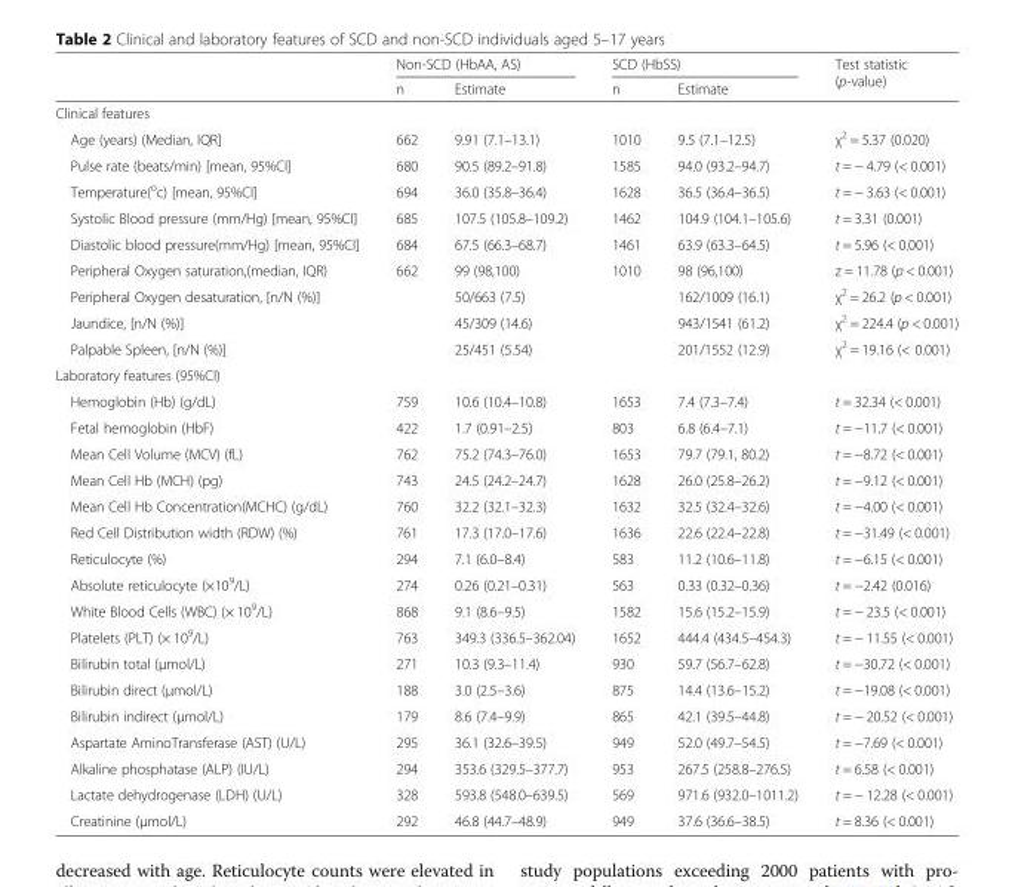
<table><thead><tr><td rowspan="2"></td><td colspan="2">Non-SCD (HbAA, AS)</td><td colspan="2">SCD (HbSS)</td><td rowspan="2">Test statistic (p-value)</td></tr><tr><td>n</td><td>Estimate</td><td>n</td><td>Estimate</td></tr></thead><tbody><tr><td colspan="6">Clinical features</td></tr><tr><td>Age (years) (Median, IQR]</td><td>662</td><td>9.91 (7.1–13.1)</td><td>1010</td><td>9.5 (7.1–12.5)</td><td>χ<sup>2</sup> = 5.37 (0.020)</td></tr><tr><td>Pulse rate (beats/min) [mean, 95%CI]</td><td>680</td><td>90.5 (89.2–91.8)</td><td>1585</td><td>94.0 (93.2–94.7)</td><td>t = − 4.79 (&lt; 0.001)</td></tr><tr><td>Temperature(<sup>o</sup>c) [mean, 95%CI]</td><td>694</td><td>36.0 (35.8–36.4)</td><td>1628</td><td>36.5 (36.4–36.5)</td><td>t = − 3.63 (&lt; 0.001)</td></tr><tr><td>Systolic Blood pressure (mm/Hg) [mean, 95%CI]</td><td>685</td><td>107.5 (105.8–109.2)</td><td>1462</td><td>104.9 (104.1–105.6)</td><td>t = 3.31 (0.001)</td></tr><tr><td>Diastolic blood pressure(mm/Hg) [mean, 95%CI]</td><td>684</td><td>67.5 (66.3–68.7)</td><td>1461</td><td>63.9 (63.3–64.5)</td><td>t = 5.96 (&lt; 0.001)</td></tr><tr><td>Peripheral Oxygen saturation,(median, IQR)</td><td>662</td><td>99 (98,100)</td><td>1010</td><td>98 (96,100)</td><td>z = 11.78 (p &lt; 0.001)</td></tr><tr><td>Peripheral Oxygen desaturation, [n/N (%)]</td><td></td><td>50/663 (7.5)</td><td></td><td>162/1009 (16.1)</td><td>χ<sup>2</sup> = 26.2 (p &lt; 0.001)</td></tr><tr><td>Jaundice, [n/N (%)]</td><td></td><td>45/309 (14.6)</td><td></td><td>943/1541 (61.2)</td><td>χ<sup>2</sup> = 224.4 (p &lt; 0.001)</td></tr><tr><td>Palpable Spleen, [n/N (%)]</td><td></td><td>25/451 (5.54)</td><td></td><td>201/1552 (12.9)</td><td>χ<sup>2</sup> = 19.16 (&lt; 0.001)</td></tr><tr><td colspan="6">Laboratory features (95%CI)</td></tr><tr><td>Hemoglobin (Hb) (g/dL)</td><td>759</td><td>10.6 (10.4–10.8)</td><td>1653</td><td>7.4 (7.3–7.4)</td><td>t = 32.34 (&lt; 0.001)</td></tr><tr><td>Fetal hemoglobin (HbF)</td><td>422</td><td>1.7 (0.91–2.5)</td><td>803</td><td>6.8 (6.4–7.1)</td><td>t = −11.7 (&lt; 0.001)</td></tr><tr><td>Mean Cell Volume (MCV) (fL)</td><td>762</td><td>75.2 (74.3–76.0)</td><td>1653</td><td>79.7 (79.1, 80.2)</td><td>t = −8.72 (&lt; 0.001)</td></tr><tr><td>Mean Cell Hb (MCH) (pg)</td><td>743</td><td>24.5 (24.2–24.7)</td><td>1628</td><td>26.0 (25.8–26.2)</td><td>t = −9.12 (&lt; 0.001)</td></tr><tr><td>Mean Cell Hb Concentration(MCHC) (g/dL)</td><td>760</td><td>32.2 (32.1–32.3)</td><td>1632</td><td>32.5 (32.4–32.6)</td><td>t = −4.00 (&lt; 0.001)</td></tr><tr><td>Red Cell Distribution width (RDW) (%)</td><td>761</td><td>17.3 (17.0–17.6)</td><td>1636</td><td>22.6 (22.4–22.8)</td><td>t = −31.49 (&lt; 0.001)</td></tr><tr><td>Reticulocyte (%)</td><td>294</td><td>7.1 (6.0–8.4)</td><td>583</td><td>11.2 (10.6–11.8)</td><td>t = −6.15 (&lt; 0.001)</td></tr><tr><td>Absolute reticulocyte (×10<sup>9</sup>/L)</td><td>274</td><td>0.26 (0.21–0.31)</td><td>563</td><td>0.33 (0.32–0.36)</td><td>t = −2.42 (0.016)</td></tr><tr><td>White Blood Cells (WBC) (× 10<sup>9</sup>/L)</td><td>868</td><td>9.1 (8.6–9.5)</td><td>1582</td><td>15.6 (15.2–15.9)</td><td>t = − 23.5 (&lt; 0.001)</td></tr><tr><td>Platelets (PLT) (× 10<sup>9</sup>/L)</td><td>763</td><td>349.3 (336.5–362.04)</td><td>1652</td><td>444.4 (434.5–454.3)</td><td>t = − 11.55 (&lt; 0.001)</td></tr><tr><td>Bilirubin total (μmol/L)</td><td>271</td><td>10.3 (9.3–11.4)</td><td>930</td><td>59.7 (56.7–62.8)</td><td>t = −30.72 (&lt; 0.001)</td></tr><tr><td>Bilirubin direct (μmol/L)</td><td>188</td><td>3.0 (2.5–3.6)</td><td>875</td><td>14.4 (13.6–15.2)</td><td>t = −19.08 (&lt; 0.001)</td></tr><tr><td>Bilirubin indirect (μmol/L)</td><td>179</td><td>8.6 (7.4–9.9)</td><td>865</td><td>42.1 (39.5–44.8)</td><td>t = − 20.52 (&lt; 0.001)</td></tr><tr><td>Aspartate AminoTransferase (AST) (U/L)</td><td>295</td><td>36.1 (32.6–39.5)</td><td>949</td><td>52.0 (49.7–54.5)</td><td>t = −7.69 (&lt; 0.001)</td></tr><tr><td>Alkaline phosphatase (ALP) (IU/L)</td><td>294</td><td>353.6 (329.5–377.7)</td><td>953</td><td>267.5 (258.8–276.5)</td><td>t = 6.58 (&lt; 0.001)</td></tr><tr><td>Lactate dehydrogenase (LDH) (U/L)</td><td>328</td><td>593.8 (548.0–639.5)</td><td>569</td><td>971.6 (932.0–1011.2)</td><td>t = − 12.28 (&lt; 0.001)</td></tr><tr><td>Creatinine (μmol/L)</td><td>292</td><td>46.8 (44.7–48.9)</td><td>949</td><td>37.6 (36.6–38.5)</td><td>t = 8.36 (&lt; 0.001)</td></tr></tbody></table>